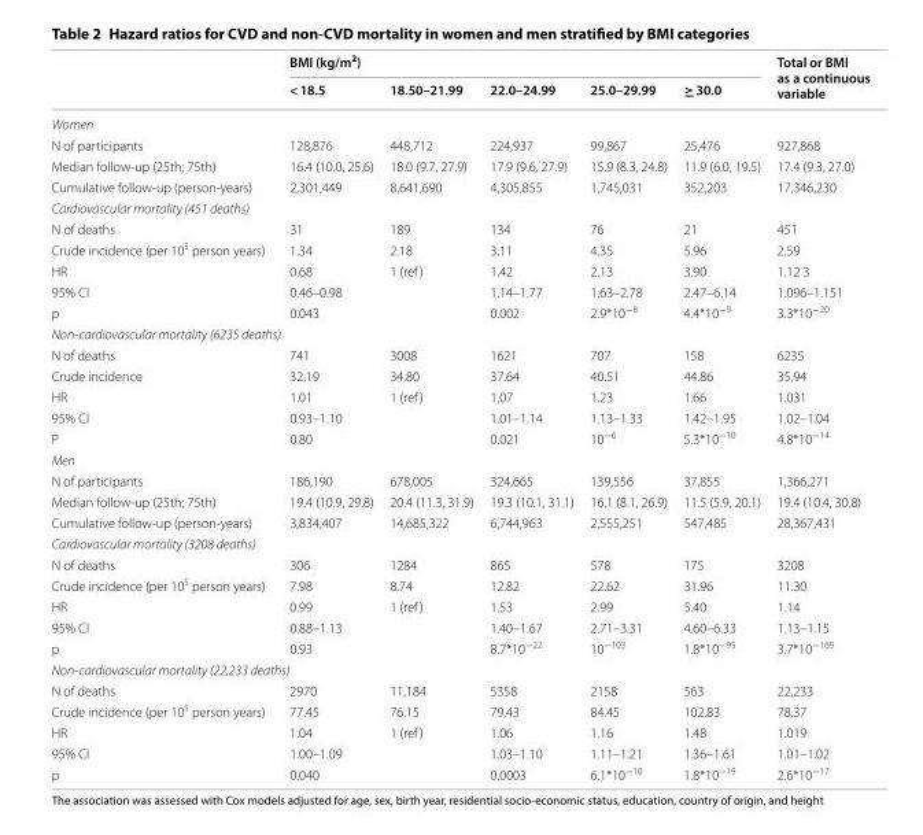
<table><thead><tr><td rowspan="2"></td><td colspan="5">BMI (kg/m<sup>2</sup>)</td><td rowspan="2">Total or BMI as a continuous variable</td></tr><tr><td>&lt; 18.5</td><td>18.50–21.99</td><td>22.0–24.99</td><td>25.0–29.99</td><td>≥ 30.0</td></tr></thead><tbody><tr><td colspan="7">Women</td></tr><tr><td>N of participants</td><td>128,876</td><td>448,712</td><td>224,937</td><td>99,867</td><td>25,476</td><td>927,868</td></tr><tr><td>Median follow‑up (25th; 75th)</td><td>16.4 (10.0, 25.6)</td><td>18.0 (9.7, 27.9)</td><td>17.9 (9.6, 27.9)</td><td>15.9 (8.3, 24.8)</td><td>11.9 (6.0, 19.5)</td><td>17.4 (9.3, 27.0)</td></tr><tr><td>Cumulative follow‑up (person‑years)</td><td>2,301,449</td><td>8,641,690</td><td>4,305,855</td><td>1,745,031</td><td>352,203</td><td>17,346,230</td></tr><tr><td colspan="7">Cardiovascular mortality (451 deaths)</td></tr><tr><td>N of deaths</td><td>31</td><td>189</td><td>134</td><td>76</td><td>21</td><td>451</td></tr><tr><td>Crude incidence (per 10<sup>5</sup> person years)</td><td>1.34</td><td>2.18</td><td>3.11</td><td>4.35</td><td>5.96</td><td>2.59</td></tr><tr><td>HR</td><td>0.68</td><td rowspan="3">1 (ref)</td><td>1.42</td><td>2.13</td><td>3.90</td><td>1.12 3</td></tr><tr><td>95% CI</td><td>0.46–0.98</td><td>1.14–1.77</td><td>1.63–2.78</td><td>2.47–6.14</td><td>1.096–1.151</td></tr><tr><td>p</td><td>0.043</td><td>0.002</td><td>2.9*10<sup>−8</sup></td><td>4.4*10<sup>−9</sup></td><td>3.3*10<sup>−20</sup></td></tr><tr><td colspan="7">Non-cardiovascular mortality (6235 deaths)</td></tr><tr><td>N of deaths</td><td>741</td><td>3008</td><td>1621</td><td>707</td><td>158</td><td>6235</td></tr><tr><td>Crude incidence</td><td>32.19</td><td>34.80</td><td>37.64</td><td>40.51</td><td>44.86</td><td>35.94</td></tr><tr><td>HR</td><td>1.01</td><td rowspan="3">1 (ref)</td><td>1.07</td><td>1.23</td><td>1.66</td><td>1.031</td></tr><tr><td>95% CI</td><td>0.93–1.10</td><td>1.01–1.14</td><td>1.13–1.33</td><td>1.42–1.95</td><td>1.02–1.04</td></tr><tr><td>P</td><td>0.80</td><td>0.021</td><td>10<sup>−6</sup></td><td>5.3*10<sup>−10</sup></td><td>4.8*10<sup>−14</sup></td></tr><tr><td colspan="7">Men</td></tr><tr><td>N of participants</td><td>186,190</td><td>678,005</td><td>324,665</td><td>139,556</td><td>37,855</td><td>1,366,271</td></tr><tr><td>Median follow‑up (25th; 75th)</td><td>19.4 (10.9, 29.8)</td><td>20.4 (11.3, 31.9)</td><td>19.3 (10.1, 31.1)</td><td>16.1 (8.1, 26.9)</td><td>11.5 (5.9, 20.1)</td><td>19.4 (10.4, 30.8)</td></tr><tr><td>Cumulative follow‑up (person‑years)</td><td>3,834,407</td><td>14,685,322</td><td>6,744,963</td><td>2,555,251</td><td>547,485</td><td>28,367,431</td></tr><tr><td colspan="7">Cardiovascular mortality (3208 deaths)</td></tr><tr><td>N of deaths</td><td>306</td><td>1284</td><td>865</td><td>578</td><td>175</td><td>3208</td></tr><tr><td>Crude incidence (per 10<sup>5</sup> person years)</td><td>7.98</td><td>8.74</td><td>12.82</td><td>22.62</td><td>31.96</td><td>11.30</td></tr><tr><td>HR</td><td>0.99</td><td rowspan="3">1 (ref)</td><td>1.53</td><td>2.99</td><td>5.40</td><td>1.14</td></tr><tr><td>95% CI</td><td>0.88–1.13</td><td>1.40–1.67</td><td>2.71–3.31</td><td>4.60–6.33</td><td>1.13–1.15</td></tr><tr><td>p</td><td>0.93</td><td>8.7*10<sup>−22</sup></td><td>10<sup>−103</sup></td><td>1.8*10<sup>−95</sup></td><td>3.7*10<sup>−169</sup></td></tr><tr><td colspan="7">Non-cardiovascular mortality (22,233 deaths)</td></tr><tr><td>N of deaths</td><td>2970</td><td>11,184</td><td>5358</td><td>2158</td><td>563</td><td>22,233</td></tr><tr><td>Crude incidence (per 10<sup>5</sup> person years)</td><td>77.45</td><td>76.15</td><td>79.43</td><td>84.45</td><td>102.83</td><td>78.37</td></tr><tr><td>HR</td><td>1.04</td><td rowspan="3">1 (ref)</td><td>1.06</td><td>1.16</td><td>1.48</td><td>1.019</td></tr><tr><td>95% CI</td><td>1.00–1.09</td><td>1.03–1.10</td><td>1.11–1.21</td><td>1.36–1.61</td><td>1.01–1.02</td></tr><tr><td>p</td><td>0.040</td><td>0.0003</td><td>6.1*10<sup>−10</sup></td><td>1.8*10<sup>−19</sup></td><td>2.6*10<sup>−17</sup></td></tr></tbody></table>